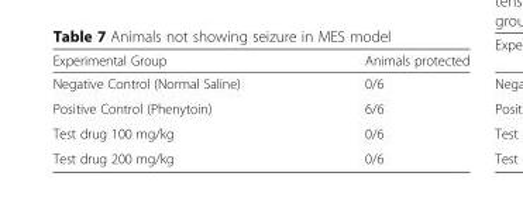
<table><thead><tr><td>Experimental Group</td><td>Animals protected</td></tr></thead><tbody><tr><td>Negative Control (Normal Saline)</td><td>0/6</td></tr><tr><td>Positive Control (Phenytoin)</td><td>6/6</td></tr><tr><td>Test drug 100 mg/kg</td><td>0/6</td></tr><tr><td>Test drug 200 mg/kg</td><td>0/6</td></tr></tbody></table>